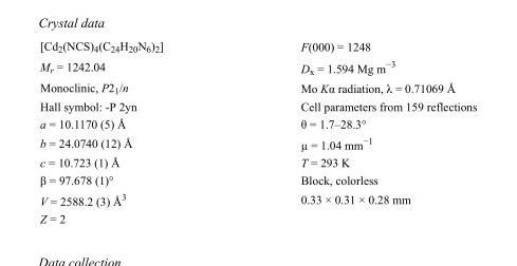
<table><tbody><tr><td>[Cd<sub>2</sub>(NCS)<sub>4</sub>(C<sub>24</sub>H<sub>20</sub>N<sub>6</sub>)<sub>2</sub>]</td><td>F(000) = 1248</td></tr><tr><td>M<sub>r</sub> = 1242.04</td><td>D<sub>x</sub> = 1.594 Mg m<sup>−3</sup></td></tr><tr><td>Monoclinic, P2<sub>1</sub>/n</td><td>Mo Kα radiation, λ = 0.71069 Å</td></tr><tr><td>Hall symbol: -P 2yn</td><td>Cell parameters from 159 reflections</td></tr><tr><td>a = 10.1170 (5) Å</td><td>θ = 1.7–28.3°</td></tr><tr><td>b = 24.0740 (12) Å</td><td>µ = 1.04 mm<sup>−1</sup></td></tr><tr><td>c = 10.723 (1) Å</td><td>T = 293 K</td></tr><tr><td>β = 97.678 (1)°</td><td>Block, colorless</td></tr><tr><td>V = 2588.2 (3) Å<sup>3</sup></td><td>0.33 × 0.31 × 0.28 mm</td></tr><tr><td>Z = 2</td><td></td></tr></tbody></table>